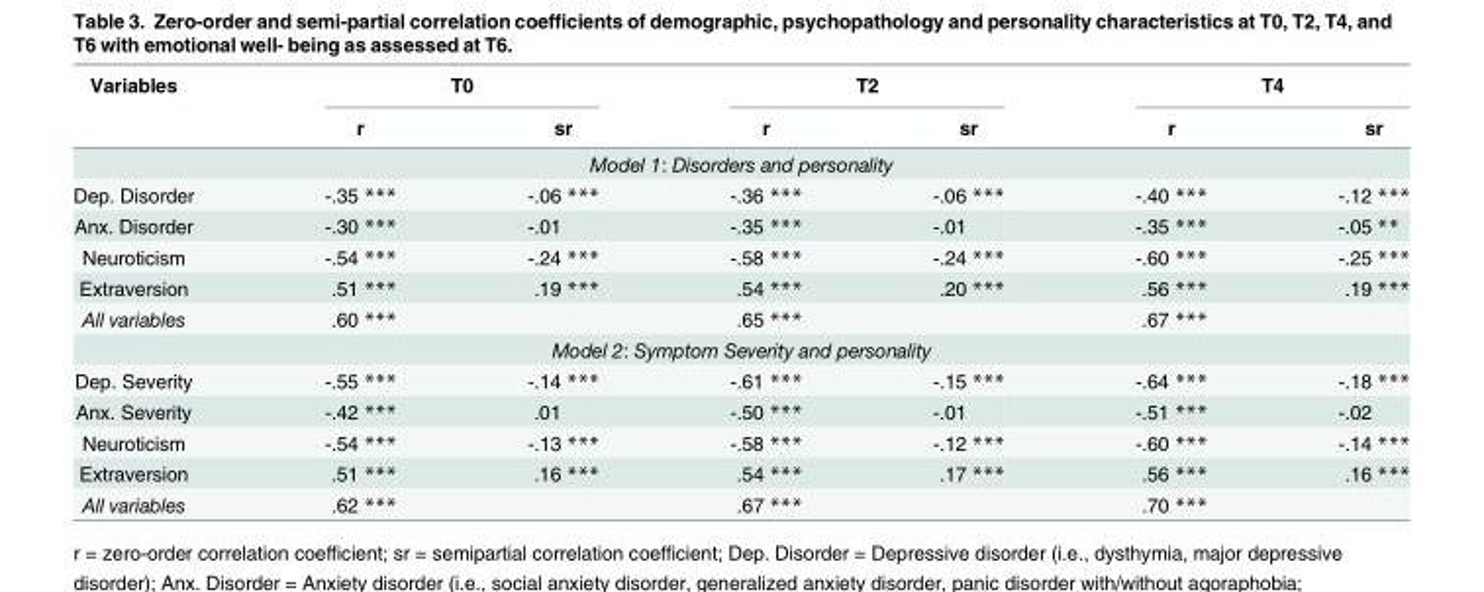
<table><thead><tr><td rowspan="2">Variables</td><td colspan="2">T0</td><td colspan="2">T2</td><td colspan="2">T4</td></tr><tr><td>r</td><td>sr</td><td>r</td><td>sr</td><td>r</td><td>sr</td></tr></thead><tbody><tr><td colspan="7">Model 1: Disorders and personality</td></tr><tr><td>Dep. Disorder</td><td>-.35 ***</td><td>-.06 ***</td><td>-.36 ***</td><td>-.06 ***</td><td>-.40 ***</td><td>-.12 ***</td></tr><tr><td>Anx. Disorder</td><td>-.30 ***</td><td>-.01</td><td>-.35 ***</td><td>-.01</td><td>-.35 ***</td><td>-.05 **</td></tr><tr><td>Neuroticism</td><td>-.54 ***</td><td>-.24 ***</td><td>-.58 ***</td><td>-.24 ***</td><td>-.60 ***</td><td>-.25 ***</td></tr><tr><td>Extraversion</td><td>.51 ***</td><td>.19 ***</td><td>.54 ***</td><td>.20 ***</td><td>.56 ***</td><td>.19 ***</td></tr><tr><td>All variables</td><td>.60 ***</td><td></td><td>.65 ***</td><td></td><td>.67 ***</td><td></td></tr><tr><td colspan="7">Model 2: Symptom Severity and personality</td></tr><tr><td>Dep. Severity</td><td>-.55 ***</td><td>-.14 ***</td><td>-.61 ***</td><td>-.15 ***</td><td>-.64 ***</td><td>-.18 ***</td></tr><tr><td>Anx. Severity</td><td>-.42 ***</td><td>.01</td><td>-.50 ***</td><td>-.01</td><td>-.51 ***</td><td>-.02</td></tr><tr><td>Neuroticism</td><td>-.54 ***</td><td>-.13 ***</td><td>-.58 ***</td><td>-.12 ***</td><td>-.60 ***</td><td>-.14 ***</td></tr><tr><td>Extraversion</td><td>.51 ***</td><td>.16 ***</td><td>.54 ***</td><td>.17 ***</td><td>.56 ***</td><td>.16 ***</td></tr><tr><td>All variables</td><td>.62 ***</td><td></td><td>.67 ***</td><td></td><td>.70 ***</td><td></td></tr></tbody></table>